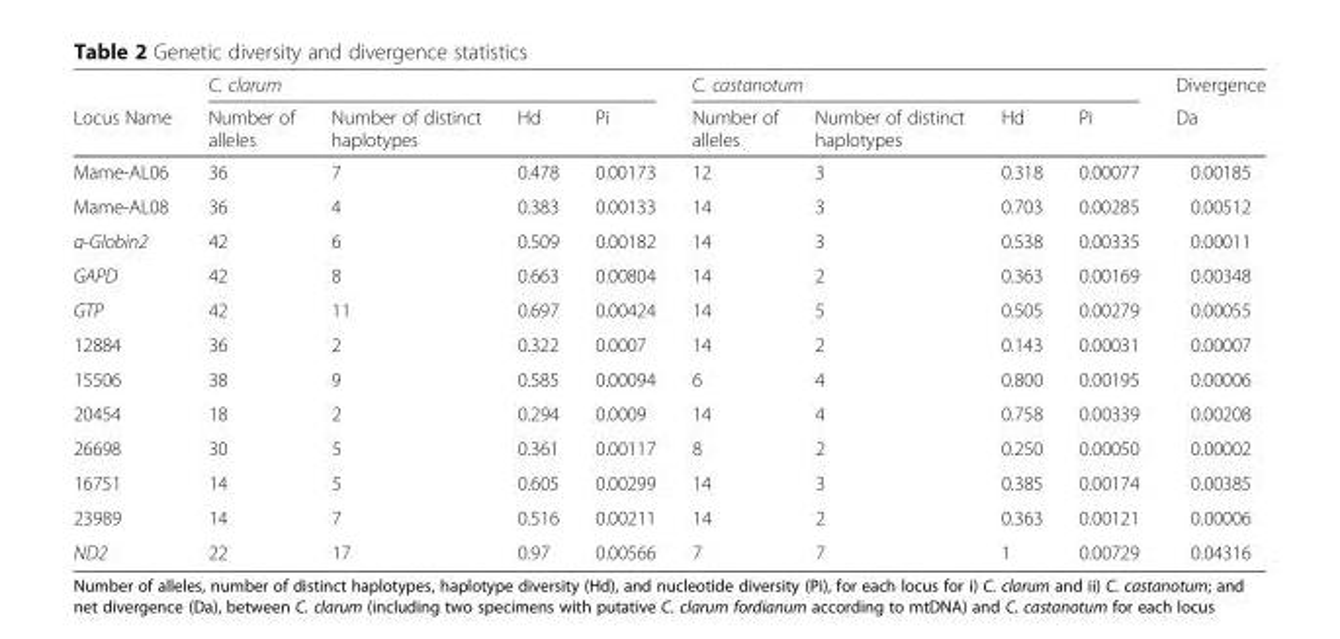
<table><thead><tr><td rowspan="2">Locus Name</td><td colspan="4">C. clarum</td><td colspan="4">C. castanotum</td><td rowspan="2">Divergence Da</td></tr><tr><td>Number of alleles</td><td>Number of distinct haplotypes</td><td>Hd</td><td>Pi</td><td>Number of alleles</td><td>Number of distinct haplotypes</td><td>Hd</td><td>Pi</td></tr></thead><tbody><tr><td>Mame-AL06</td><td>36</td><td>7</td><td>0.478</td><td>0.00173</td><td>12</td><td>3</td><td>0.318</td><td>0.00077</td><td>0.00185</td></tr><tr><td>Mame-AL08</td><td>36</td><td>4</td><td>0.383</td><td>0.00133</td><td>14</td><td>3</td><td>0.703</td><td>0.00285</td><td>0.00512</td></tr><tr><td>α-Globin2</td><td>42</td><td>6</td><td>0.509</td><td>0.00182</td><td>14</td><td>3</td><td>0.538</td><td>0.00335</td><td>0.00011</td></tr><tr><td>GAPD</td><td>42</td><td>8</td><td>0.663</td><td>0.00804</td><td>14</td><td>2</td><td>0.363</td><td>0.00169</td><td>0.00348</td></tr><tr><td>GTP</td><td>42</td><td>11</td><td>0.697</td><td>0.00424</td><td>14</td><td>5</td><td>0.505</td><td>0.00279</td><td>0.00055</td></tr><tr><td>12884</td><td>36</td><td>2</td><td>0.322</td><td>0.0007</td><td>14</td><td>2</td><td>0.143</td><td>0.00031</td><td>0.00007</td></tr><tr><td>15506</td><td>38</td><td>9</td><td>0.585</td><td>0.00094</td><td>6</td><td>4</td><td>0.800</td><td>0.00195</td><td>0.00006</td></tr><tr><td>20454</td><td>18</td><td>2</td><td>0.294</td><td>0.0009</td><td>14</td><td>4</td><td>0.758</td><td>0.00339</td><td>0.00208</td></tr><tr><td>26698</td><td>30</td><td>5</td><td>0.361</td><td>0.00117</td><td>8</td><td>2</td><td>0.250</td><td>0.00050</td><td>0.00002</td></tr><tr><td>16751</td><td>14</td><td>5</td><td>0.605</td><td>0.00299</td><td>14</td><td>3</td><td>0.385</td><td>0.00174</td><td>0.00385</td></tr><tr><td>23989</td><td>14</td><td>7</td><td>0.516</td><td>0.00211</td><td>14</td><td>2</td><td>0.363</td><td>0.00121</td><td>0.00006</td></tr><tr><td>ND2</td><td>22</td><td>17</td><td>0.97</td><td>0.00566</td><td>7</td><td>7</td><td>1</td><td>0.00729</td><td>0.04316</td></tr></tbody></table>